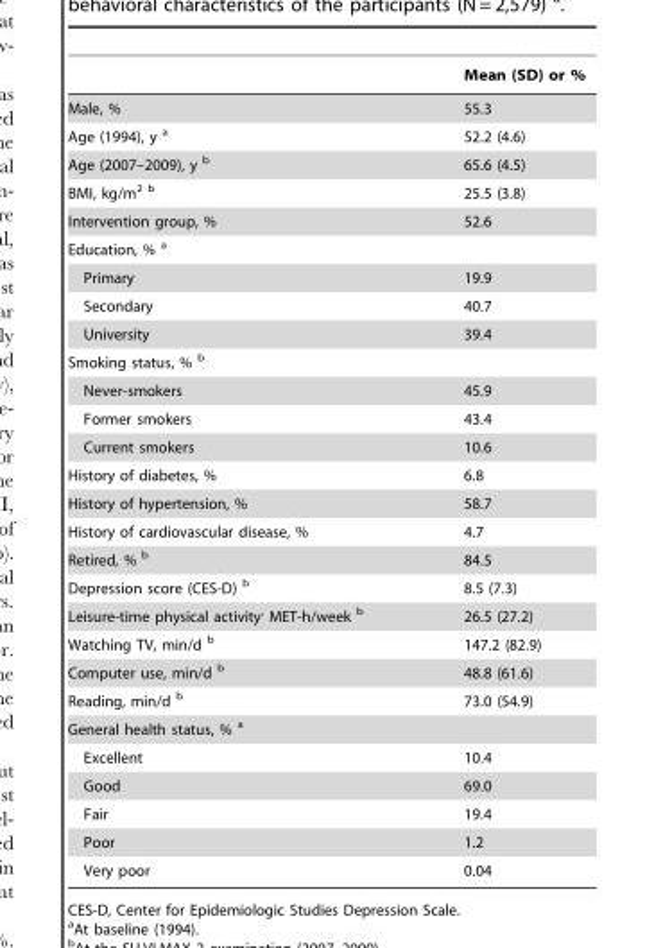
<table><thead><tr><td></td><td>Mean (SD) or %</td></tr></thead><tbody><tr><td>Male, %</td><td>55.3</td></tr><tr><td>Age (1994), y a</td><td>52.2 (4.6)</td></tr><tr><td>Age (2007–2009), y b</td><td>65.6 (4.5)</td></tr><tr><td>BMI, kg/m<sup>2</sup> b</td><td>25.5 (3.8)</td></tr><tr><td>Intervention group, %</td><td>52.6</td></tr><tr><td colspan="2">Education, % a</td></tr><tr><td>Primary</td><td>19.9</td></tr><tr><td>Secondary</td><td>40.7</td></tr><tr><td>University</td><td>39.4</td></tr><tr><td colspan="2">Smoking status, % b</td></tr><tr><td>Never-smokers</td><td>45.9</td></tr><tr><td>Former smokers</td><td>43.4</td></tr><tr><td>Current smokers</td><td>10.6</td></tr><tr><td>History of diabetes, %</td><td>6.8</td></tr><tr><td>History of hypertension, %</td><td>58.7</td></tr><tr><td>History of cardiovascular disease, %</td><td>4.7</td></tr><tr><td>Retired, % b</td><td>84.5</td></tr><tr><td>Depression score (CES-D) b</td><td>8.5 (7.3)</td></tr><tr><td>Leisure-time physical activity<sup>,</sup> MET-h/week b</td><td>26.5 (27.2)</td></tr><tr><td>Watching TV, min/d b</td><td>147.2 (82.9)</td></tr><tr><td>Computer use, min/d b</td><td>48.8 (61.6)</td></tr><tr><td>Reading, min/d b</td><td>73.0 (54.9)</td></tr><tr><td colspan="2">General health status, % a</td></tr><tr><td>Excellent</td><td>10.4</td></tr><tr><td>Good</td><td>69.0</td></tr><tr><td>Fair</td><td>19.4</td></tr><tr><td>Poor</td><td>1.2</td></tr><tr><td>Very poor</td><td>0.04</td></tr></tbody></table>